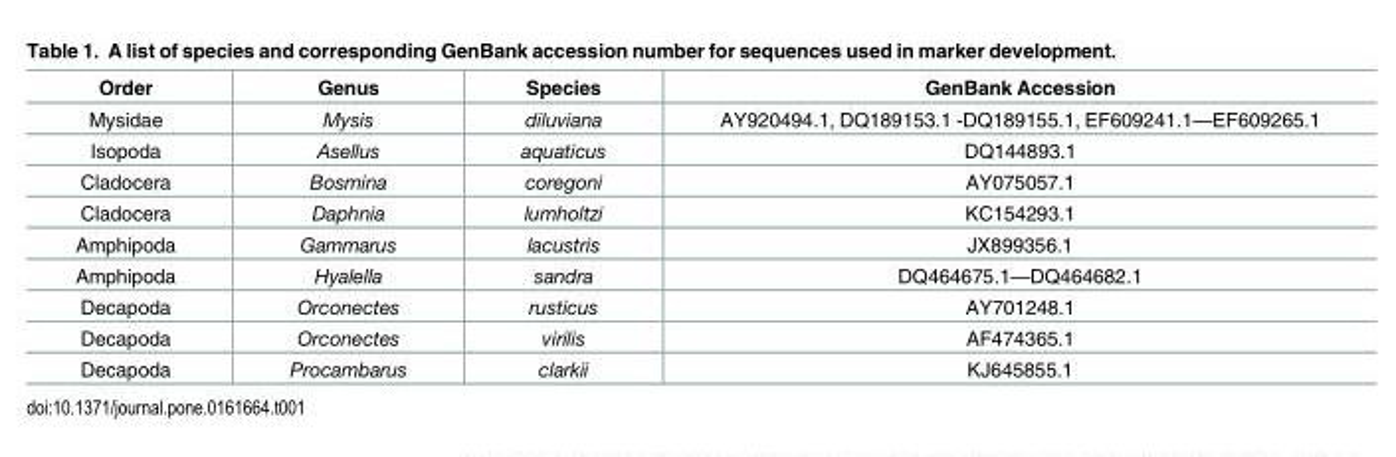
<table><thead><tr><td>Order</td><td>Genus</td><td>Species</td><td>GenBank Accession</td></tr></thead><tbody><tr><td>Mysidae</td><td>Mysis</td><td>diluviana</td><td>AY920494.1, DQ189153.1 -DQ189155.1, EF609241.1—EF609265.1</td></tr><tr><td>Isopoda</td><td>Asellus</td><td>aquaticus</td><td>DQ144893.1</td></tr><tr><td>Cladocera</td><td>Bosmina</td><td>coregoni</td><td>AY075057.1</td></tr><tr><td>Cladocera</td><td>Daphnia</td><td>lumholtzi</td><td>KC154293.1</td></tr><tr><td>Amphipoda</td><td>Gammarus</td><td>lacustris</td><td>JX899356.1</td></tr><tr><td>Amphipoda</td><td>Hyalella</td><td>sandra</td><td>DQ464675.1—DQ464682.1</td></tr><tr><td>Decapoda</td><td>Orconectes</td><td>rusticus</td><td>AY701248.1</td></tr><tr><td>Decapoda</td><td>Orconectes</td><td>virilis</td><td>AF474365.1</td></tr><tr><td>Decapoda</td><td>Procambarus</td><td>clarkii</td><td>KJ645855.1</td></tr></tbody></table>